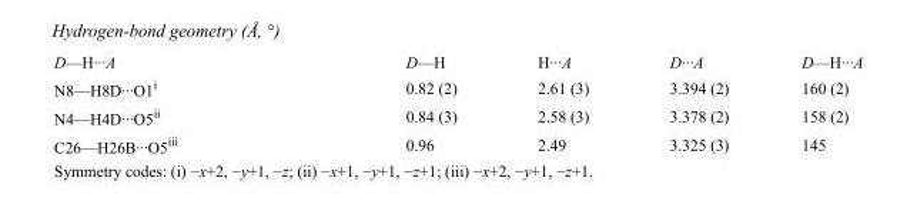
<table><tbody><tr><td>D—H···A</td><td>D—H</td><td>H···A</td><td>D···A</td><td>D—H···A</td></tr><tr><td>N8—H8D···O1<sup>i</sup></td><td>0.82 (2)</td><td>2.61 (3)</td><td>3.394 (2)</td><td>160 (2)</td></tr><tr><td>N4—H4D···O5<sup>ii</sup></td><td>0.84 (3)</td><td>2.58 (3)</td><td>3.378 (2)</td><td>158 (2)</td></tr><tr><td>C26—H26B···O5<sup>iii</sup></td><td>0.96</td><td>2.49</td><td>3.325 (3)</td><td>145</td></tr></tbody></table>